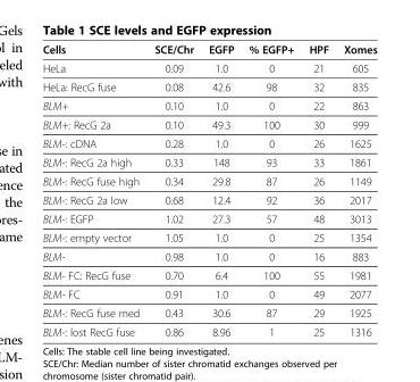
<table><thead><tr><td>Cells</td><td>SCE/Chr</td><td>EGFP</td><td>% EGFP+</td><td>HPF</td><td>Xomes</td></tr></thead><tbody><tr><td>HeLa</td><td>0.09</td><td>1.0</td><td>0</td><td>21</td><td>605</td></tr><tr><td>HeLa: RecG fuse</td><td>0.08</td><td>42.6</td><td>98</td><td>32</td><td>835</td></tr><tr><td>BLM+</td><td>0.10</td><td>1.0</td><td>0</td><td>22</td><td>863</td></tr><tr><td>BLM+: RecG 2a</td><td>0.10</td><td>49.3</td><td>100</td><td>30</td><td>999</td></tr><tr><td>BLM-: cDNA</td><td>0.28</td><td>1.0</td><td>0</td><td>26</td><td>1625</td></tr><tr><td>BLM-: RecG 2a high</td><td>0.33</td><td>148</td><td>93</td><td>33</td><td>1861</td></tr><tr><td>BLM-: RecG fuse high</td><td>0.34</td><td>29.8</td><td>87</td><td>26</td><td>1149</td></tr><tr><td>BLM-: RecG 2a low</td><td>0.68</td><td>12.4</td><td>92</td><td>36</td><td>2017</td></tr><tr><td>BLM-: EGFP</td><td>1.02</td><td>27.3</td><td>57</td><td>48</td><td>3013</td></tr><tr><td>BLM-: empty vector</td><td>1.05</td><td>1.0</td><td>0</td><td>25</td><td>1354</td></tr><tr><td>BLM-</td><td>0.98</td><td>1.0</td><td>0</td><td>16</td><td>883</td></tr><tr><td>BLM- FC: RecG fuse</td><td>0.70</td><td>6.4</td><td>100</td><td>55</td><td>1981</td></tr><tr><td>BLM- FC</td><td>0.91</td><td>1.0</td><td>0</td><td>49</td><td>2077</td></tr><tr><td>BLM-: RecG fuse med</td><td>0.43</td><td>30.6</td><td>87</td><td>29</td><td>1925</td></tr><tr><td>BLM-: lost RecG fuse</td><td>0.86</td><td>8.96</td><td>1</td><td>25</td><td>1316</td></tr></tbody></table>